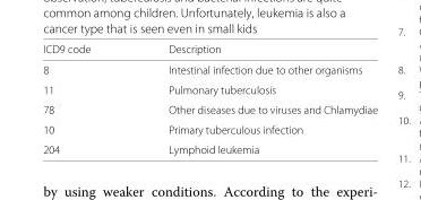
<table><thead><tr><td>ICD9 code</td><td>Description</td></tr></thead><tbody><tr><td>8</td><td>Intestinal infection due to other organisms</td></tr><tr><td>11</td><td>Pulmonary tuberculosis</td></tr><tr><td>78</td><td>Other diseases due to viruses and Chlamydiae</td></tr><tr><td>10</td><td>Primary tuberculous infection</td></tr><tr><td>204</td><td>Lymphoid leukemia</td></tr></tbody></table>